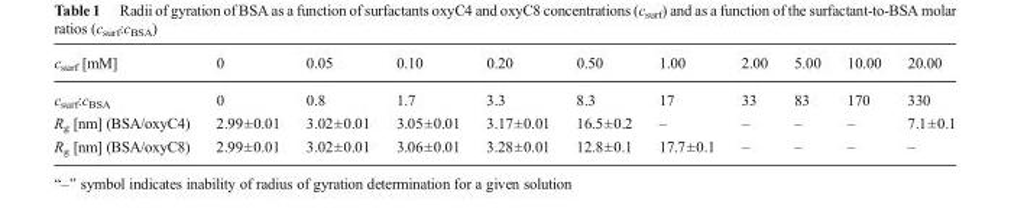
<table><thead><tr><td>c<sub>surf</sub> [mM]</td><td>0</td><td>0.05</td><td>0.10</td><td>0.20</td><td>0.50</td><td>1.00</td><td>2.00</td><td>5.00</td><td>10.00</td><td>20.00</td></tr></thead><tbody><tr><td>c<sub>surf</sub>:c<sub>BSA</sub></td><td>0</td><td>0.8</td><td>1.7</td><td>3.3</td><td>8.3</td><td>17</td><td>33</td><td>83</td><td>170</td><td>330</td></tr><tr><td>R<sub>g</sub> [nm] (BSA/oxyC4)</td><td>2.99±0.01</td><td>3.02±0.01</td><td>3.05±0.01</td><td>3.17±0.01</td><td>16.5±0.2</td><td>–</td><td>–</td><td>–</td><td>–</td><td>7.1±0.1</td></tr><tr><td>R<sub>g</sub> [nm] (BSA/oxyC8)</td><td>2.99±0.01</td><td>3.02±0.01</td><td>3.06±0.01</td><td>3.28±0.01</td><td>12.8±0.1</td><td>17.7±0.1</td><td>–</td><td>–</td><td>–</td><td>–</td></tr></tbody></table>